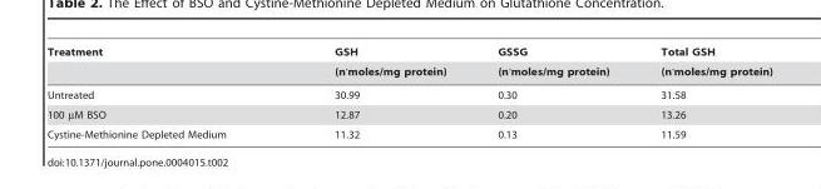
<table><thead><tr><td rowspan="2">Treatment</td><td rowspan="2">GSH (n<sup>.</sup>moles/mg protein)</td><td rowspan="2">GSSG (n<sup>.</sup>moles/mg protein)</td><td rowspan="2">Total GSH (n<sup>.</sup>moles/mg protein)</td></tr><tr></tr></thead><tbody><tr><td>Untreated</td><td>30.99</td><td>0.30</td><td>31.58</td></tr><tr><td>100 µM BSO</td><td>12.87</td><td>0.20</td><td>13.26</td></tr><tr><td>Cystine-Methionine Depleted Medium</td><td>11.32</td><td>0.13</td><td>11.59</td></tr></tbody></table>